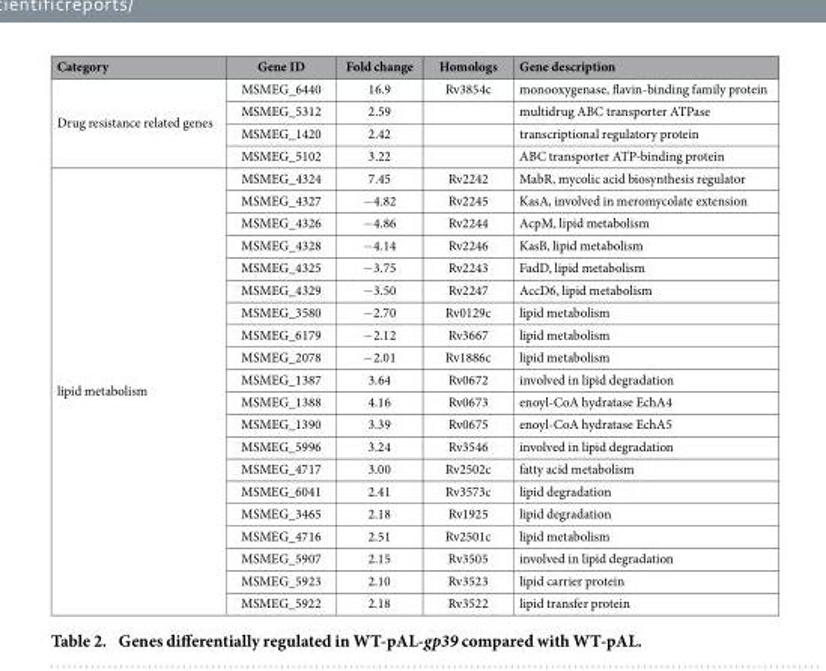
<table><thead><tr><td>Category</td><td>Gene ID</td><td>Fold change</td><td>Homologs</td><td>Gene description</td></tr></thead><tbody><tr><td rowspan="4">Drug resistance related genes</td><td>MSMEG_6440</td><td>16.9</td><td>Rv3854c</td><td>monooxygenase, flavin-binding family protein</td></tr><tr><td>MSMEG_5312</td><td>2.59</td><td></td><td>multidrug ABC transporter ATPase</td></tr><tr><td>MSMEG_1420</td><td>2.42</td><td></td><td>transcriptional regulatory protein</td></tr><tr><td>MSMEG_5102</td><td>3.22</td><td></td><td>ABC transporter ATP-binding protein</td></tr><tr><td rowspan="20">lipid metabolism</td><td>MSMEG_4324</td><td>7.45</td><td>Rv2242</td><td>MabR, mycolic acid biosynthesis regulator</td></tr><tr><td>MSMEG_4327</td><td>− 4.82</td><td>Rv2245</td><td>KasA, involved in meromycolate extension</td></tr><tr><td>MSMEG_4326</td><td>− 4.86</td><td>Rv2244</td><td>AcpM, lipid metabolism</td></tr><tr><td>MSMEG_4328</td><td>− 4.14</td><td>Rv2246</td><td>KasB, lipid metabolism</td></tr><tr><td>MSMEG_4325</td><td>− 3.75</td><td>Rv2243</td><td>FadD, lipid metabolism</td></tr><tr><td>MSMEG_4329</td><td>− 3.50</td><td>Rv2247</td><td>AccD6, lipid metabolism</td></tr><tr><td>MSMEG_3580</td><td>− 2.70</td><td>Rv0129c</td><td>lipid metabolism</td></tr><tr><td>MSMEG_6179</td><td>− 2.12</td><td>Rv3667</td><td>lipid metabolism</td></tr><tr><td>MSMEG_2078</td><td>− 2.01</td><td>Rv1886c</td><td>lipid metabolism</td></tr><tr><td>MSMEG_1387</td><td>3.64</td><td>Rv0672</td><td>involved in lipid degradation</td></tr><tr><td>MSMEG_1388</td><td>4.16</td><td>Rv0673</td><td>enoyl-CoA hydratase EchA4</td></tr><tr><td>MSMEG_1390</td><td>3.39</td><td>Rv0675</td><td>enoyl-CoA hydratase EchA5</td></tr><tr><td>MSMEG_5996</td><td>3.24</td><td>Rv3546</td><td>involved in lipid degradation</td></tr><tr><td>MSMEG_4717</td><td>3.00</td><td>Rv2502c</td><td>fatty acid metabolism</td></tr><tr><td>MSMEG_6041</td><td>2.41</td><td>Rv3573c</td><td>lipid degradation</td></tr><tr><td>MSMEG_3465</td><td>2.18</td><td>Rv1925</td><td>lipid degradation</td></tr><tr><td>MSMEG_4716</td><td>2.51</td><td>Rv2501c</td><td>lipid metabolism</td></tr><tr><td>MSMEG_5907</td><td>2.15</td><td>Rv3505</td><td>involved in lipid degradation</td></tr><tr><td>MSMEG_5923</td><td>2.10</td><td>Rv3523</td><td>lipid carrier protein</td></tr><tr><td>MSMEG_5922</td><td>2.18</td><td>Rv3522</td><td>lipid transfer protein</td></tr></tbody></table>